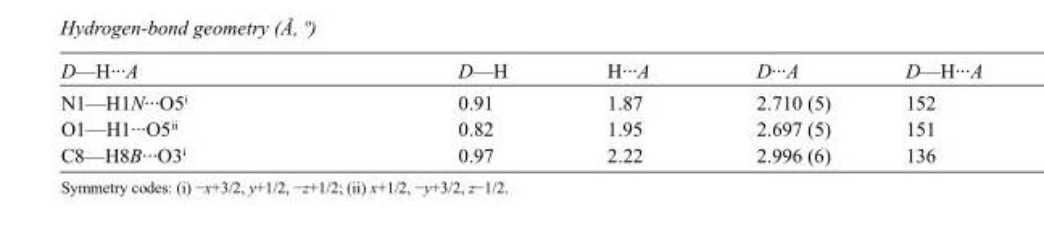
<table><tbody><tr><td>D—H···A</td><td>D—H</td><td>H···A</td><td>D···A</td><td>D—H···A</td></tr><tr><td>N1—H1N···O5<sup>i</sup></td><td>0.91</td><td>1.87</td><td>2.710 (5)</td><td>152</td></tr><tr><td>O1—H1···O5<sup>ii</sup></td><td>0.82</td><td>1.95</td><td>2.697 (5)</td><td>151</td></tr><tr><td>C8—H8B···O3<sup>i</sup></td><td>0.97</td><td>2.22</td><td>2.996 (6)</td><td>136</td></tr></tbody></table>